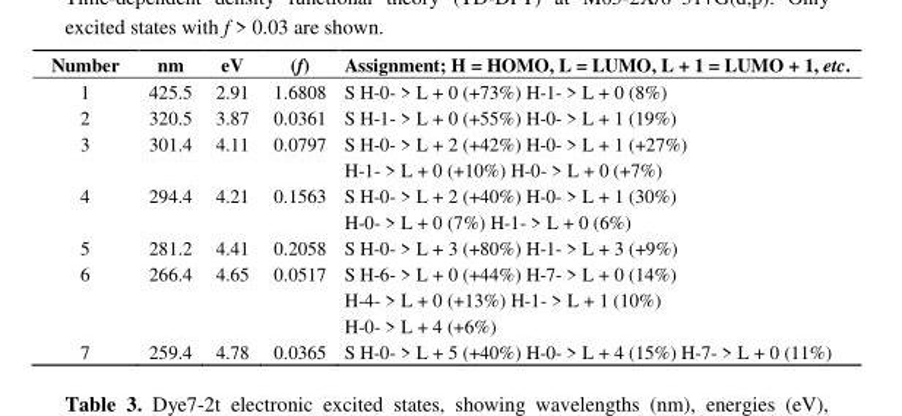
<table><thead><tr><td>Number</td><td>nm</td><td>eV</td><td>(f)</td><td>Assignment; H = HOMO, L = LUMO, L + 1 = LUMO + 1, etc.</td></tr></thead><tbody><tr><td>1</td><td>425.5</td><td>2.91</td><td>1.6808</td><td>S H-0- &gt; L + 0 (+73%) H-1- &gt; L + 0 (8%)</td></tr><tr><td>2</td><td>320.5</td><td>3.87</td><td>0.0361</td><td>S H-1- &gt; L + 0 (+55%) H-0- &gt; L + 1 (19%)</td></tr><tr><td>3</td><td>301.4</td><td>4.11</td><td>0.0797</td><td>S H-0- &gt; L + 2 (+42%) H-0- &gt; L + 1 (+27%) H-1- &gt; L + 0 (+10%) H-0- &gt; L + 0 (+7%)</td></tr><tr><td>4</td><td>294.4</td><td>4.21</td><td>0.1563</td><td>S H-0- &gt; L + 2 (+40%) H-0- &gt; L + 1 (30%) H-0- &gt; L + 0 (7%) H-1- &gt; L + 0 (6%)</td></tr><tr><td>5</td><td>281.2</td><td>4.41</td><td>0.2058</td><td>S H-0- &gt; L + 3 (+80%) H-1- &gt; L + 3 (+9%)</td></tr><tr><td>6</td><td>266.4</td><td>4.65</td><td>0.0517</td><td>S H-6- &gt; L + 0 (+44%) H-7- &gt; L + 0 (14%) H-4- &gt; L + 0 (+13%) H-1- &gt; L + 1 (10%) H-0- &gt; L + 4 (+6%)</td></tr><tr><td>7</td><td>259.4</td><td>4.78</td><td>0.0365</td><td>S H-0- &gt; L + 5 (+40%) H-0- &gt; L + 4 (15%) H-7- &gt; L + 0 (11%)</td></tr></tbody></table>